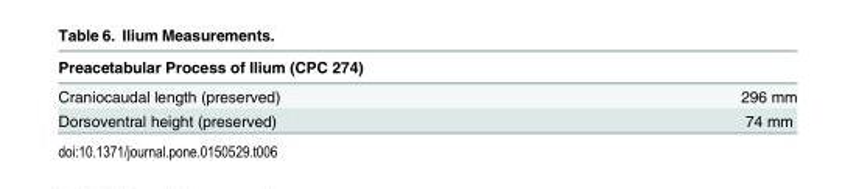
<table><thead><tr><td>Preacetabular Process of Ilium (CPC 274)</td><td></td></tr></thead><tbody><tr><td>Craniocaudal length (preserved)</td><td>296 mm</td></tr><tr><td>Dorsoventral height (preserved)</td><td>74 mm</td></tr></tbody></table>